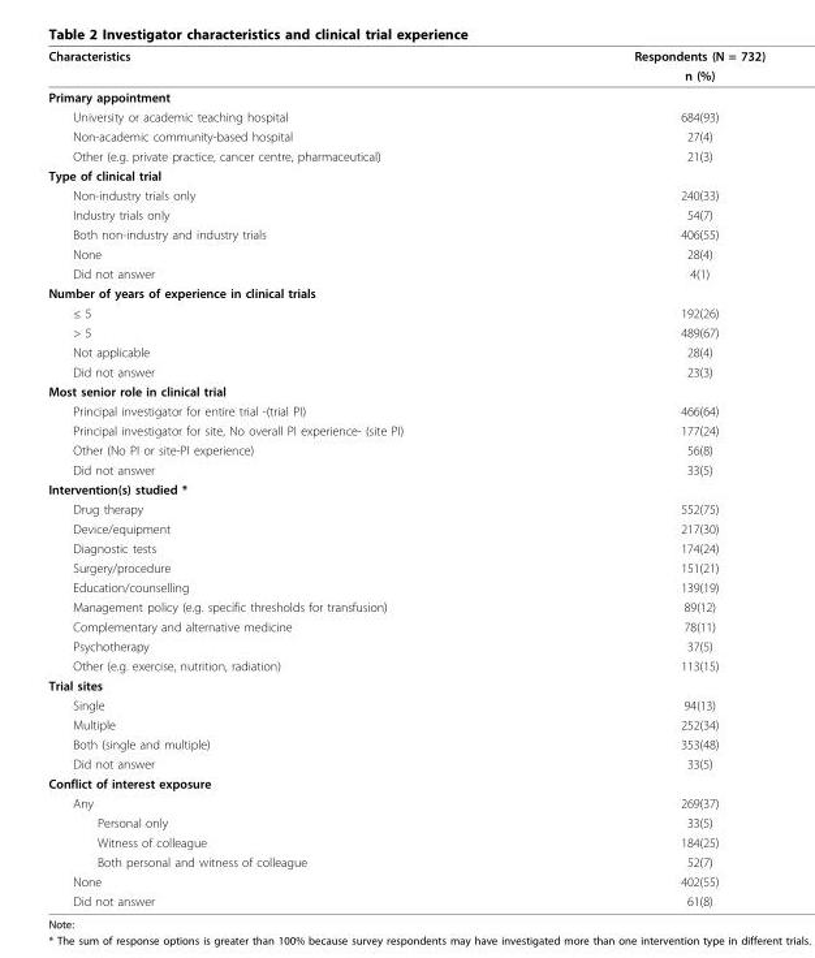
<table><thead><tr><td rowspan="2">Characteristics</td><td rowspan="2">Respondents (N = 732) n (%)</td></tr><tr></tr></thead><tbody><tr><td colspan="2">Primary appointment</td></tr><tr><td>University or academic teaching hospital</td><td>684(93)</td></tr><tr><td>Non-academic community-based hospital</td><td>27(4)</td></tr><tr><td>Other (e.g. private practice, cancer centre, pharmaceutical)</td><td>21(3)</td></tr><tr><td colspan="2">Type of clinical trial</td></tr><tr><td>Non-industry trials only</td><td>240(33)</td></tr><tr><td>Industry trials only</td><td>54(7)</td></tr><tr><td>Both non-industry and industry trials</td><td>406(55)</td></tr><tr><td>None</td><td>28(4)</td></tr><tr><td>Did not answer</td><td>4(1)</td></tr><tr><td colspan="2">Number of years of experience in clinical trials</td></tr><tr><td>≤ 5</td><td>192(26)</td></tr><tr><td>&gt; 5</td><td>489(67)</td></tr><tr><td>Not applicable</td><td>28(4)</td></tr><tr><td>Did not answer</td><td>23(3)</td></tr><tr><td colspan="2">Most senior role in clinical trial</td></tr><tr><td>Principal investigator for entire trial -(trial PI)</td><td>466(64)</td></tr><tr><td>Principal investigator for site, No overall PI experience- (site PI)</td><td>177(24)</td></tr><tr><td>Other (No PI or site-PI experience)</td><td>56(8)</td></tr><tr><td>Did not answer</td><td>33(5)</td></tr><tr><td colspan="2">Intervention(s) studied *</td></tr><tr><td>Drug therapy</td><td>552(75)</td></tr><tr><td>Device/equipment</td><td>217(30)</td></tr><tr><td>Diagnostic tests</td><td>174(24)</td></tr><tr><td>Surgery/procedure</td><td>151(21)</td></tr><tr><td>Education/counselling</td><td>139(19)</td></tr><tr><td>Management policy (e.g. specific thresholds for transfusion)</td><td>89(12)</td></tr><tr><td>Complementary and alternative medicine</td><td>78(11)</td></tr><tr><td>Psychotherapy</td><td>37(5)</td></tr><tr><td>Other (e.g. exercise, nutrition, radiation)</td><td>113(15)</td></tr><tr><td colspan="2">Trial sites</td></tr><tr><td>Single</td><td>94(13)</td></tr><tr><td>Multiple</td><td>252(34)</td></tr><tr><td>Both (single and multiple)</td><td>353(48)</td></tr><tr><td>Did not answer</td><td>33(5)</td></tr><tr><td colspan="2">Conflict of interest exposure</td></tr><tr><td>Any</td><td>269(37)</td></tr><tr><td>Personal only</td><td>33(5)</td></tr><tr><td>Witness of colleague</td><td>184(25)</td></tr><tr><td>Both personal and witness of colleague</td><td>52(7)</td></tr><tr><td>None</td><td>402(55)</td></tr><tr><td>Did not answer</td><td>61(8)</td></tr></tbody></table>